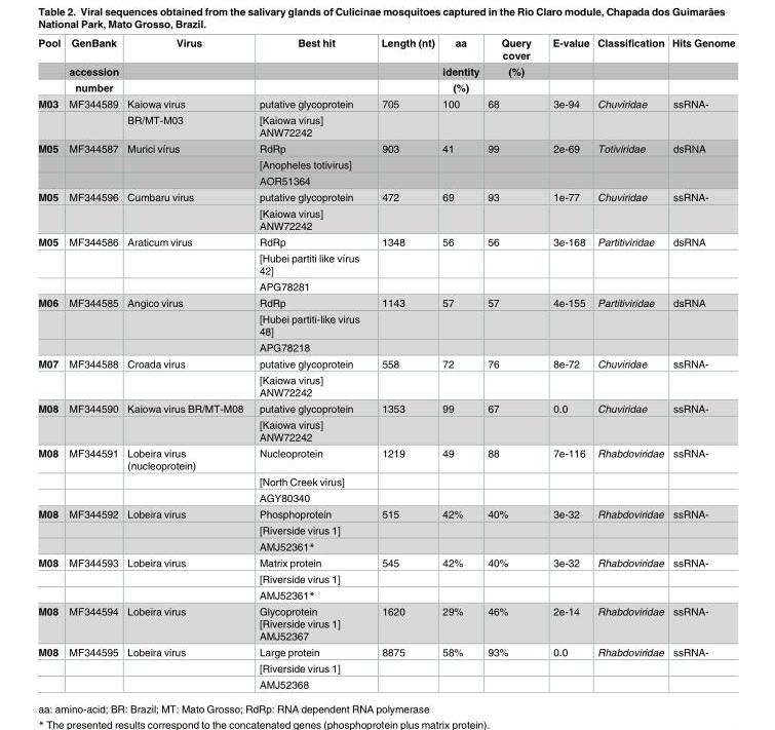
<table><thead><tr><td rowspan="3">Pool</td><td rowspan="3">GenBank accession number</td><td rowspan="3">Virus</td><td rowspan="3">Best hit</td><td rowspan="3">Length (nt)</td><td rowspan="3">aa identity (%)</td><td rowspan="3">Query cover (%)</td><td rowspan="3">E-value</td><td rowspan="3">Classification</td><td rowspan="3">Hits Genome</td></tr><tr></tr><tr></tr></thead><tbody><tr><td rowspan="2">M03</td><td>MF344589</td><td>Kaiowa virus</td><td>putative glycoprotein</td><td>705</td><td>100</td><td>68</td><td>3e-94</td><td>Chuviridae</td><td>ssRNA-</td></tr><tr><td></td><td>BR/MT-M03</td><td>[Kaiowa virus] ANW72242</td><td></td><td></td><td></td><td></td><td></td><td></td></tr><tr><td rowspan="3">M05</td><td>MF344587</td><td>Murici vı´rus</td><td>RdRp</td><td>903</td><td>41</td><td>99</td><td>2e-69</td><td>Totiviridae</td><td>dsRNA</td></tr><tr><td></td><td></td><td>[Anopheles totivirus]</td><td></td><td></td><td></td><td></td><td></td><td></td></tr><tr><td></td><td></td><td>AOR51364</td><td></td><td></td><td></td><td></td><td></td><td></td></tr><tr><td rowspan="2">M05</td><td>MF344596</td><td>Cumbaru virus</td><td>putative glycoprotein</td><td>472</td><td>69</td><td>93</td><td>1e-77</td><td>Chuviridae</td><td>ssRNA-</td></tr><tr><td></td><td></td><td>[Kaiowa virus] ANW72242</td><td></td><td></td><td></td><td></td><td></td><td></td></tr><tr><td rowspan="3">M05</td><td>MF344586</td><td>Araticum virus</td><td>RdRp</td><td>1348</td><td>56</td><td>56</td><td>3e-168</td><td>Partitiviridae</td><td>dsRNA</td></tr><tr><td></td><td></td><td>[Hubei partiti like vı´rus 42]</td><td></td><td></td><td></td><td></td><td></td><td></td></tr><tr><td></td><td></td><td>APG78281</td><td></td><td></td><td></td><td></td><td></td><td></td></tr><tr><td rowspan="3">M06</td><td>MF344585</td><td>Angico virus</td><td>RdRp</td><td>1143</td><td>57</td><td>57</td><td>4e-155</td><td>Partitiviridae</td><td>dsRNA</td></tr><tr><td></td><td></td><td>[Hubei partiti-like virus 48]</td><td></td><td></td><td></td><td></td><td></td><td></td></tr><tr><td></td><td></td><td>APG78218</td><td></td><td></td><td></td><td></td><td></td><td></td></tr><tr><td rowspan="2">M07</td><td>MF344588</td><td>Croada virus</td><td>putative glycoprotein</td><td>558</td><td>72</td><td>76</td><td>8e-72</td><td>Chuviridae</td><td>ssRNA-</td></tr><tr><td></td><td></td><td>[Kaiowa virus] ANW72242</td><td></td><td></td><td></td><td></td><td></td><td></td></tr><tr><td rowspan="2">M08</td><td>MF344590</td><td>Kaiowa virus BR/MT-M08</td><td>putative glycoprotein</td><td>1353</td><td>99</td><td>67</td><td>0.0</td><td>Chuviridae</td><td>ssRNA-</td></tr><tr><td></td><td></td><td>[Kaiowa virus] ANW72242</td><td></td><td></td><td></td><td></td><td></td><td></td></tr><tr><td rowspan="3">M08</td><td>MF344591</td><td>Lobeira virus (nucleoprotein)</td><td>Nucleoprotein</td><td>1219</td><td>49</td><td>88</td><td>7e-116</td><td>Rhabdoviridae</td><td>ssRNA-</td></tr><tr><td></td><td></td><td>[North Creek virus]</td><td></td><td></td><td></td><td></td><td></td><td></td></tr><tr><td></td><td></td><td>AGY80340</td><td></td><td></td><td></td><td></td><td></td><td></td></tr><tr><td rowspan="3">M08</td><td>MF344592</td><td>Lobeira virus</td><td>Phosphoprotein</td><td>515</td><td>42%</td><td>40%</td><td>3e-32</td><td>Rhabdoviridae</td><td>ssRNA-</td></tr><tr><td></td><td></td><td>[Riverside virus 1]</td><td></td><td></td><td></td><td></td><td></td><td></td></tr><tr><td></td><td></td><td>AMJ52361*</td><td></td><td></td><td></td><td></td><td></td><td></td></tr><tr><td rowspan="3">M08</td><td>MF344593</td><td>Lobeira virus</td><td>Matrix protein</td><td>545</td><td>42%</td><td>40%</td><td>3e-32</td><td>Rhabdoviridae</td><td>ssRNA-</td></tr><tr><td></td><td></td><td>[Riverside virus 1]</td><td></td><td></td><td></td><td></td><td></td><td></td></tr><tr><td></td><td></td><td>AMJ52361*</td><td></td><td></td><td></td><td></td><td></td><td></td></tr><tr><td>M08</td><td>MF344594</td><td>Lobeira virus</td><td>Glycoprotein [Riverside virus 1] AMJ52367</td><td>1620</td><td>29%</td><td>46%</td><td>2e-14</td><td>Rhabdoviridae</td><td>ssRNA-</td></tr><tr><td rowspan="3">M08</td><td>MF344595</td><td>Lobeira virus</td><td>Large protein</td><td>8875</td><td>58%</td><td>93%</td><td>0.0</td><td>Rhabdoviridae</td><td>ssRNA-</td></tr><tr><td></td><td></td><td>[Riverside virus 1]</td><td></td><td></td><td></td><td></td><td></td><td></td></tr><tr><td></td><td></td><td>AMJ52368</td><td></td><td></td><td></td><td></td><td></td><td></td></tr></tbody></table>